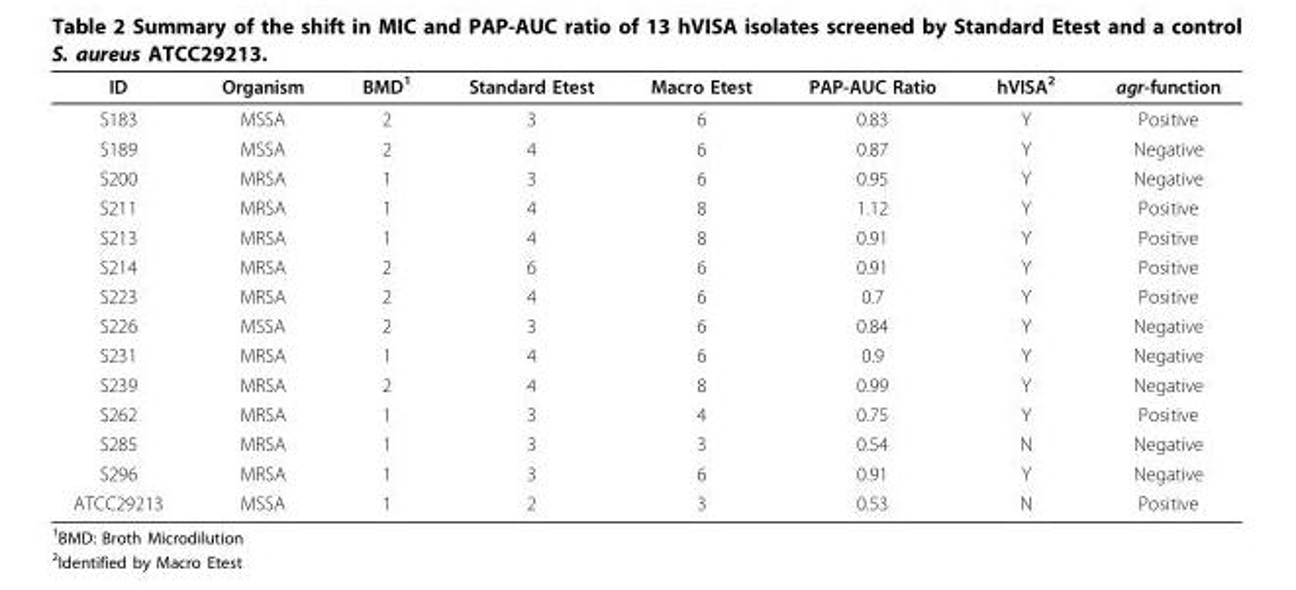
<table><thead><tr><td>ID</td><td>Organism</td><td>BMD<sup>1</sup></td><td>Standard Etest</td><td>Macro Etest</td><td>PAP-AUC Ratio</td><td>hVISA<sup>2</sup></td><td>agr-function</td></tr></thead><tbody><tr><td>S183</td><td>MSSA</td><td>2</td><td>3</td><td>6</td><td>0.83</td><td>Y</td><td>Positive</td></tr><tr><td>S189</td><td>MSSA</td><td>2</td><td>4</td><td>6</td><td>0.87</td><td>Y</td><td>Negative</td></tr><tr><td>S200</td><td>MRSA</td><td>1</td><td>3</td><td>6</td><td>0.95</td><td>Y</td><td>Negative</td></tr><tr><td>S211</td><td>MRSA</td><td>1</td><td>4</td><td>8</td><td>1.12</td><td>Y</td><td>Positive</td></tr><tr><td>S213</td><td>MRSA</td><td>1</td><td>4</td><td>8</td><td>0.91</td><td>Y</td><td>Positive</td></tr><tr><td>S214</td><td>MRSA</td><td>2</td><td>6</td><td>6</td><td>0.91</td><td>Y</td><td>Positive</td></tr><tr><td>S223</td><td>MRSA</td><td>2</td><td>4</td><td>6</td><td>0.7</td><td>Y</td><td>Positive</td></tr><tr><td>S226</td><td>MSSA</td><td>2</td><td>3</td><td>6</td><td>0.84</td><td>Y</td><td>Negative</td></tr><tr><td>S231</td><td>MRSA</td><td>1</td><td>4</td><td>6</td><td>0.9</td><td>Y</td><td>Negative</td></tr><tr><td>S239</td><td>MRSA</td><td>2</td><td>4</td><td>8</td><td>0.99</td><td>Y</td><td>Negative</td></tr><tr><td>S262</td><td>MRSA</td><td>1</td><td>3</td><td>4</td><td>0.75</td><td>Y</td><td>Positive</td></tr><tr><td>S285</td><td>MRSA</td><td>1</td><td>3</td><td>3</td><td>0.54</td><td>N</td><td>Negative</td></tr><tr><td>S296</td><td>MRSA</td><td>1</td><td>3</td><td>6</td><td>0.91</td><td>Y</td><td>Negative</td></tr><tr><td>ATCC29213</td><td>MSSA</td><td>1</td><td>2</td><td>3</td><td>0.53</td><td>N</td><td>Positive</td></tr></tbody></table>